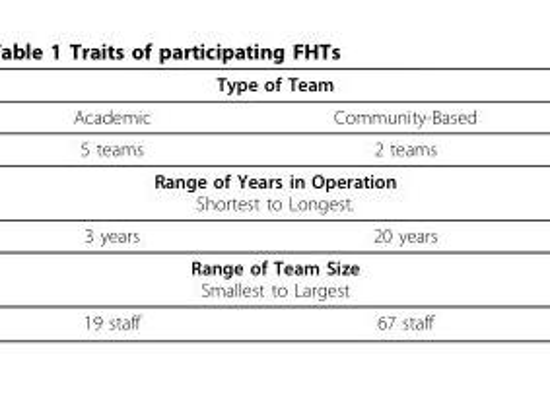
<table><thead><tr><td colspan="2">Type of Team</td></tr><tr><td>Academic</td><td>Community-Based</td></tr></thead><tbody><tr><td>5 teams</td><td>2 teams</td></tr><tr><td colspan="2">Range of Years in Operation Shortest to Longest.</td></tr><tr><td>3 years</td><td>20 years</td></tr><tr><td colspan="2">Range of Team Size Smallest to Largest</td></tr><tr><td>19 staff</td><td>67 staff</td></tr></tbody></table>